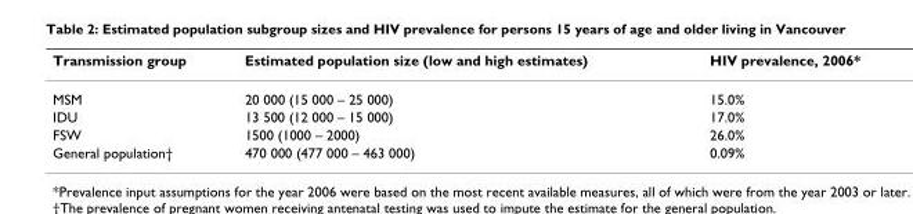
<table><thead><tr><td>Transmission group</td><td>Estimated population size (low and high estimates)</td><td>HIV prevalence, 2006*</td></tr></thead><tbody><tr><td>MSM</td><td>20 000 (15 000 – 25 000)</td><td>15.0%</td></tr><tr><td>IDU</td><td>13 500 (12 000 – 15 000)</td><td>17.0%</td></tr><tr><td>FSW</td><td>1500 (1000 – 2000)</td><td>26.0%</td></tr><tr><td>General population†</td><td>470 000 (477 000 – 463 000)</td><td>0.09%</td></tr></tbody></table>